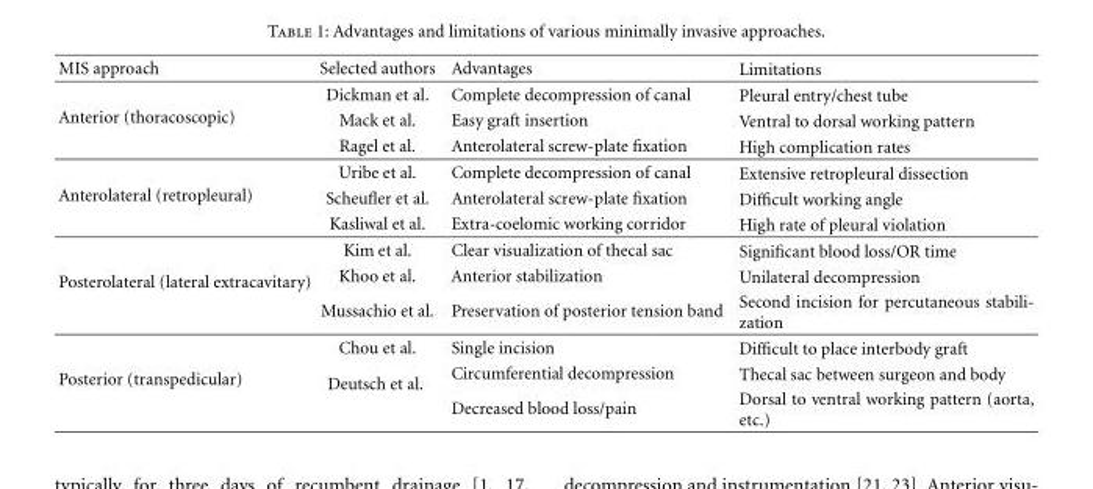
<table><thead><tr><td>MIS approach</td><td>Selected authors</td><td>Advantages</td><td>Limitations</td></tr></thead><tbody><tr><td rowspan="3">Anterior (thoracoscopic)</td><td>Dickman et al.</td><td>Complete decompression of canal</td><td>Pleural entry/chest tube</td></tr><tr><td>Mack et al.</td><td>Easy graft insertion</td><td>Ventral to dorsal working pattern</td></tr><tr><td>Ragel et al.</td><td>Anterolateral screw-plate fixation</td><td>High complication rates</td></tr><tr><td rowspan="3">Anterolateral (retropleural)</td><td>Uribe et al.</td><td>Complete decompression of canal</td><td>Extensive retropleural dissection</td></tr><tr><td>Scheufler et al.</td><td>Anterolateral screw-plate fixation</td><td>Difficult working angle</td></tr><tr><td>Kasliwal et al.</td><td>Extra-coelomic working corridor</td><td>High rate of pleural violation</td></tr><tr><td rowspan="3">Posterolateral (lateral extracavitary)</td><td>Kim et al.</td><td>Clear visualization of thecal sac</td><td>Significant blood loss/OR time</td></tr><tr><td>Khoo et al.</td><td>Anterior stabilization</td><td>Unilateral decompression</td></tr><tr><td>Mussachio et al.</td><td>Preservation of posterior tension band</td><td>Second incision for percutaneous stabili- zation</td></tr><tr><td rowspan="3">Posterior (transpedicular)</td><td>Chou et al.</td><td>Single incision</td><td>Difficult to place interbody graft</td></tr><tr><td rowspan="2">Deutsch et al.</td><td>Circumferential decompression</td><td>Thecal sac between surgeon and body</td></tr><tr><td>Decreased blood loss/pain</td><td>Dorsal to ventral working pattern (aorta, etc.)</td></tr></tbody></table>